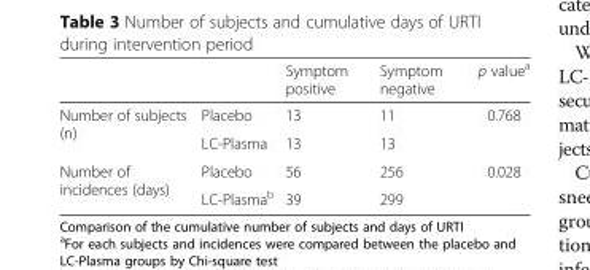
<table><thead><tr><td></td><td></td><td>Symptom positive</td><td>Symptom negative</td><td>p value<sup>a</sup></td></tr></thead><tbody><tr><td rowspan="2">Number of subjects (n)</td><td>Placebo</td><td>13</td><td>11</td><td>0.768</td></tr><tr><td>LC-Plasma</td><td>13</td><td>13</td><td></td></tr><tr><td rowspan="2">Number of incidences (days)</td><td>Placebo</td><td>56</td><td>256</td><td>0.028</td></tr><tr><td>LC-Plasma<sup>b</sup></td><td>39</td><td>299</td><td></td></tr></tbody></table>